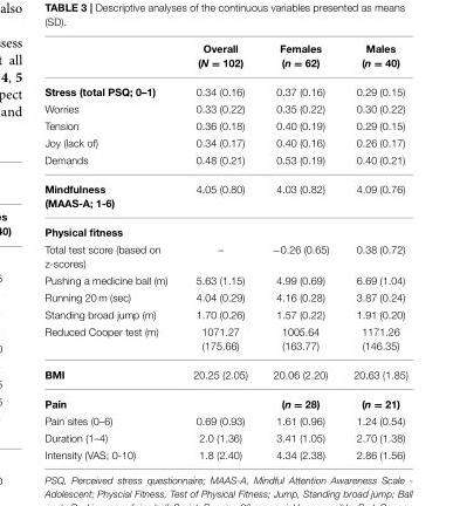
<table><thead><tr><td></td><td>Overall (N = 102)</td><td>Females (n = 62)</td><td>Males (n = 40)</td></tr></thead><tbody><tr><td>Stress (total PSQ; 0–1)</td><td>0.34 (0.16)</td><td>0.37 (0.16)</td><td>0.29 (0.15)</td></tr><tr><td>Worries</td><td>0.33 (0.22)</td><td>0.35 (0.22)</td><td>0.30 (0.22)</td></tr><tr><td>Tension</td><td>0.36 (0.18)</td><td>0.40 (0.19)</td><td>0.29 (0.15)</td></tr><tr><td>Joy (lack of)</td><td>0.34 (0.17)</td><td>0.40 (0.16)</td><td>0.26 (0.17)</td></tr><tr><td>Demands</td><td>0.48 (0.21)</td><td>0.53 (0.19)</td><td>0.40 (0.21)</td></tr><tr><td>Mindfulness (MAAS-A; 1-6)</td><td>4.05 (0.80)</td><td>4.03 (0.82)</td><td>4.09 (0.76)</td></tr><tr><td colspan="4">Physical fitness</td></tr><tr><td>Total test score (based on z-scores)</td><td>–</td><td>−0.26 (0.65)</td><td>0.38 (0.72)</td></tr><tr><td>Pushing a medicine ball (m)</td><td>5.63 (1.15)</td><td>4.99 (0.69)</td><td>6.69 (1.04)</td></tr><tr><td>Running 20 m (sec)</td><td>4.04 (0.29)</td><td>4.16 (0.28)</td><td>3.87 (0.24)</td></tr><tr><td>Standing broad jump (m)</td><td>1.70 (0.26)</td><td>1.57 (0.22)</td><td>1.91 (0.20)</td></tr><tr><td>Reduced Cooper test (m)</td><td>1071.27 (175.66)</td><td>1005.64 (163.77)</td><td>1171.26 (146.35)</td></tr><tr><td>BMI</td><td>20.25 (2.05)</td><td>20.06 (2.20)</td><td>20.63 (1.85)</td></tr><tr><td>Pain</td><td></td><td>(n = 28)</td><td>(n = 21)</td></tr><tr><td>Pain sites (0–6)</td><td>0.69 (0.93)</td><td>1.61 (0.96)</td><td>1.24 (0.54)</td></tr><tr><td>Duration (1–4)</td><td>2.0 (1.36)</td><td>3.41 (1.05)</td><td>2.70 (1.38)</td></tr><tr><td>Intensity (VAS; 0-10)</td><td>1.8 (2.40)</td><td>4.34 (2.38)</td><td>2.86 (1.56)</td></tr></tbody></table>